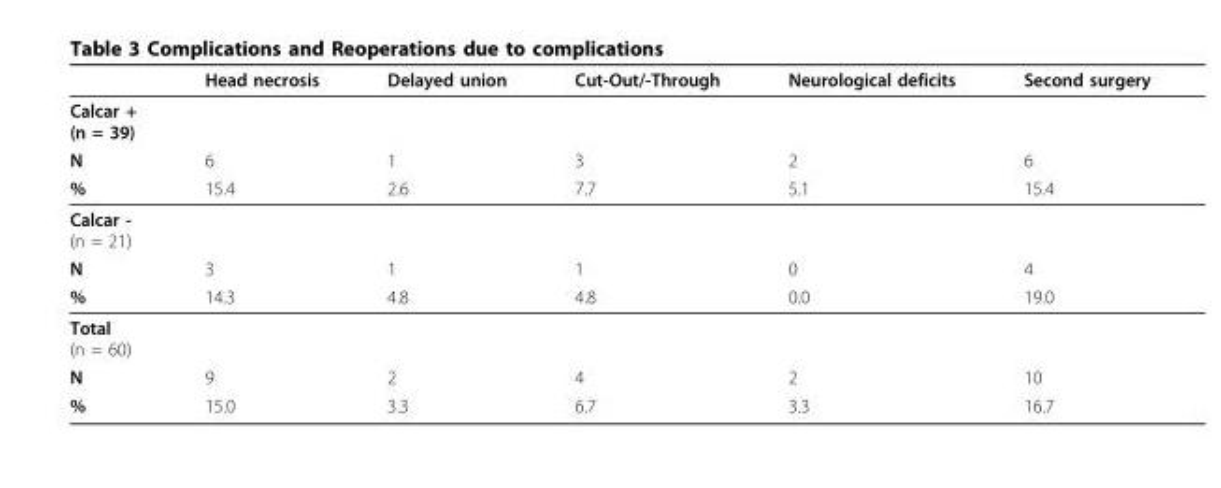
<table><thead><tr><td></td><td>Head necrosis</td><td>Delayed union</td><td>Cut-Out/-Through</td><td>Neurological deficits</td><td>Second surgery</td></tr></thead><tbody><tr><td colspan="6">Calcar + (n = 39)</td></tr><tr><td>N</td><td>6</td><td>1</td><td>3</td><td>2</td><td>6</td></tr><tr><td>%</td><td>15.4</td><td>2.6</td><td>7.7</td><td>5.1</td><td>15.4</td></tr><tr><td colspan="6">Calcar - (n = 21)</td></tr><tr><td>N</td><td>3</td><td>1</td><td>1</td><td>0</td><td>4</td></tr><tr><td>%</td><td>14.3</td><td>4.8</td><td>4.8</td><td>0.0</td><td>19.0</td></tr><tr><td colspan="6">Total (n = 60)</td></tr><tr><td>N</td><td>9</td><td>2</td><td>4</td><td>2</td><td>10</td></tr><tr><td>%</td><td>15.0</td><td>3.3</td><td>6.7</td><td>3.3</td><td>16.7</td></tr></tbody></table>